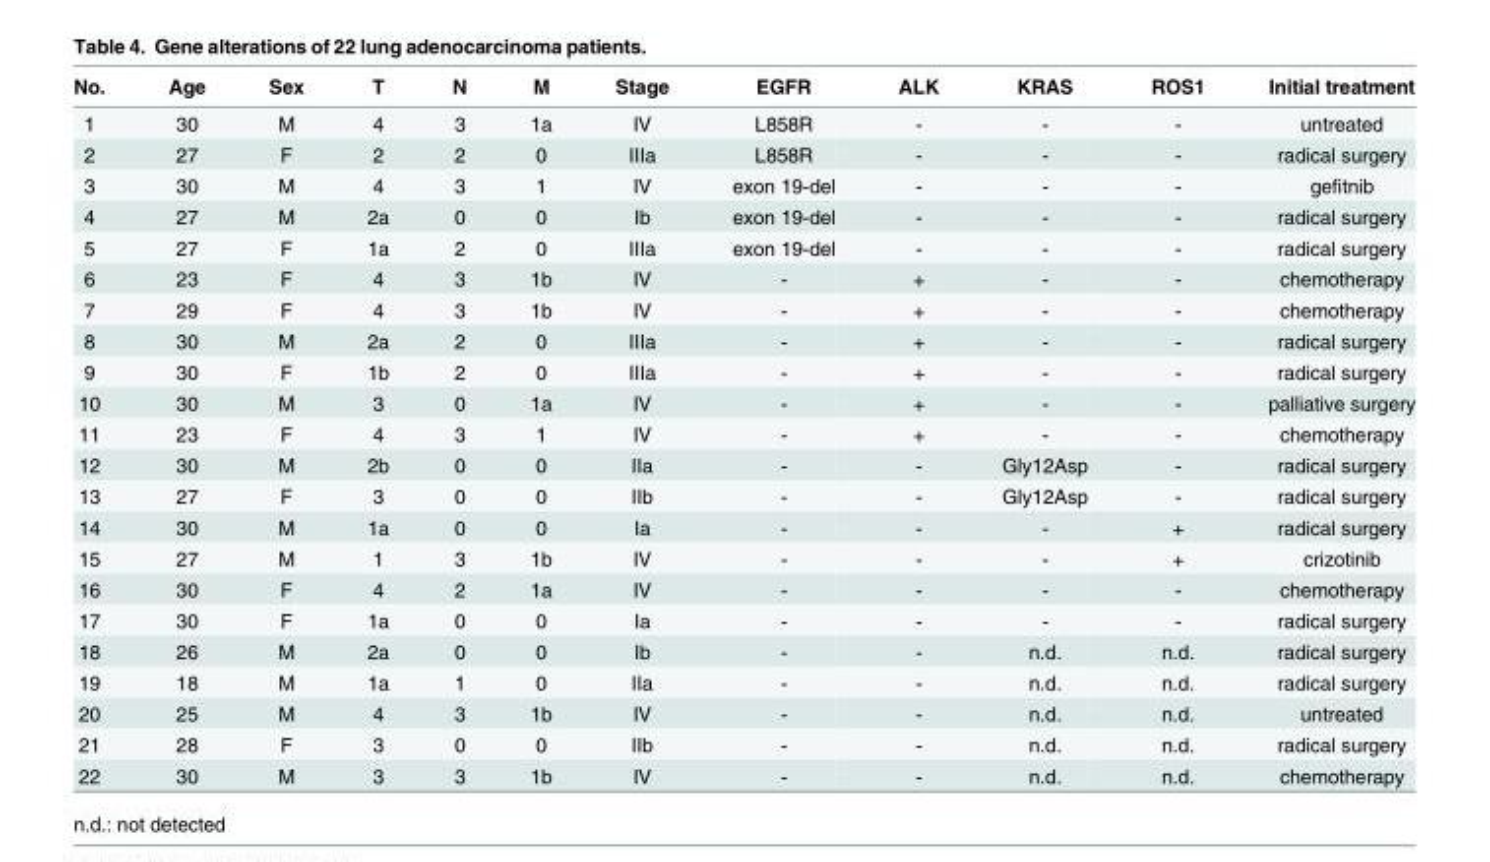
<table><thead><tr><td>No.</td><td>Age</td><td>Sex</td><td>T</td><td>N</td><td>M</td><td>Stage</td><td>EGFR</td><td>ALK</td><td>KRAS</td><td>ROS1</td><td>Initial treatment</td></tr></thead><tbody><tr><td>1</td><td>30</td><td>M</td><td>4</td><td>3</td><td>1a</td><td>IV</td><td>L858R</td><td>-</td><td>-</td><td>-</td><td>untreated</td></tr><tr><td>2</td><td>27</td><td>F</td><td>2</td><td>2</td><td>0</td><td>IIIa</td><td>L858R</td><td>-</td><td>-</td><td>-</td><td>radical surgery</td></tr><tr><td>3</td><td>30</td><td>M</td><td>4</td><td>3</td><td>1</td><td>IV</td><td>exon 19-del</td><td>-</td><td>-</td><td>-</td><td>gefitnib</td></tr><tr><td>4</td><td>27</td><td>M</td><td>2a</td><td>0</td><td>0</td><td>Ib</td><td>exon 19-del</td><td>-</td><td>-</td><td>-</td><td>radical surgery</td></tr><tr><td>5</td><td>27</td><td>F</td><td>1a</td><td>2</td><td>0</td><td>IIIa</td><td>exon 19-del</td><td>-</td><td>-</td><td>-</td><td>radical surgery</td></tr><tr><td>6</td><td>23</td><td>F</td><td>4</td><td>3</td><td>1b</td><td>IV</td><td>-</td><td>+</td><td>-</td><td>-</td><td>chemotherapy</td></tr><tr><td>7</td><td>29</td><td>F</td><td>4</td><td>3</td><td>1b</td><td>IV</td><td>-</td><td>+</td><td>-</td><td>-</td><td>chemotherapy</td></tr><tr><td>8</td><td>30</td><td>M</td><td>2a</td><td>2</td><td>0</td><td>IIIa</td><td>-</td><td>+</td><td>-</td><td>-</td><td>radical surgery</td></tr><tr><td>9</td><td>30</td><td>F</td><td>1b</td><td>2</td><td>0</td><td>IIIa</td><td>-</td><td>+</td><td>-</td><td>-</td><td>radical surgery</td></tr><tr><td>10</td><td>30</td><td>M</td><td>3</td><td>0</td><td>1a</td><td>IV</td><td>-</td><td>+</td><td>-</td><td>-</td><td>palliative surgery</td></tr><tr><td>11</td><td>23</td><td>F</td><td>4</td><td>3</td><td>1</td><td>IV</td><td>-</td><td>+</td><td>-</td><td>-</td><td>chemotherapy</td></tr><tr><td>12</td><td>30</td><td>M</td><td>2b</td><td>0</td><td>0</td><td>IIa</td><td>-</td><td>-</td><td>Gly12Asp</td><td>-</td><td>radical surgery</td></tr><tr><td>13</td><td>27</td><td>F</td><td>3</td><td>0</td><td>0</td><td>IIb</td><td>-</td><td>-</td><td>Gly12Asp</td><td>-</td><td>radical surgery</td></tr><tr><td>14</td><td>30</td><td>M</td><td>1a</td><td>0</td><td>0</td><td>Ia</td><td>-</td><td>-</td><td>-</td><td>+</td><td>radical surgery</td></tr><tr><td>15</td><td>27</td><td>M</td><td>1</td><td>3</td><td>1b</td><td>IV</td><td>-</td><td>-</td><td>-</td><td>+</td><td>crizotinib</td></tr><tr><td>16</td><td>30</td><td>F</td><td>4</td><td>2</td><td>1a</td><td>IV</td><td>-</td><td>-</td><td>-</td><td>-</td><td>chemotherapy</td></tr><tr><td>17</td><td>30</td><td>F</td><td>1a</td><td>0</td><td>0</td><td>Ia</td><td>-</td><td>-</td><td>-</td><td>-</td><td>radical surgery</td></tr><tr><td>18</td><td>26</td><td>M</td><td>2a</td><td>0</td><td>0</td><td>Ib</td><td>-</td><td>-</td><td>n.d.</td><td>n.d.</td><td>radical surgery</td></tr><tr><td>19</td><td>18</td><td>M</td><td>1a</td><td>1</td><td>0</td><td>IIa</td><td>-</td><td>-</td><td>n.d.</td><td>n.d.</td><td>radical surgery</td></tr><tr><td>20</td><td>25</td><td>M</td><td>4</td><td>3</td><td>1b</td><td>IV</td><td>-</td><td>-</td><td>n.d.</td><td>n.d.</td><td>untreated</td></tr><tr><td>21</td><td>28</td><td>F</td><td>3</td><td>0</td><td>0</td><td>IIb</td><td>-</td><td>-</td><td>n.d.</td><td>n.d.</td><td>radical surgery</td></tr><tr><td>22</td><td>30</td><td>M</td><td>3</td><td>3</td><td>1b</td><td>IV</td><td>-</td><td>-</td><td>n.d.</td><td>n.d.</td><td>chemotherapy</td></tr></tbody></table>